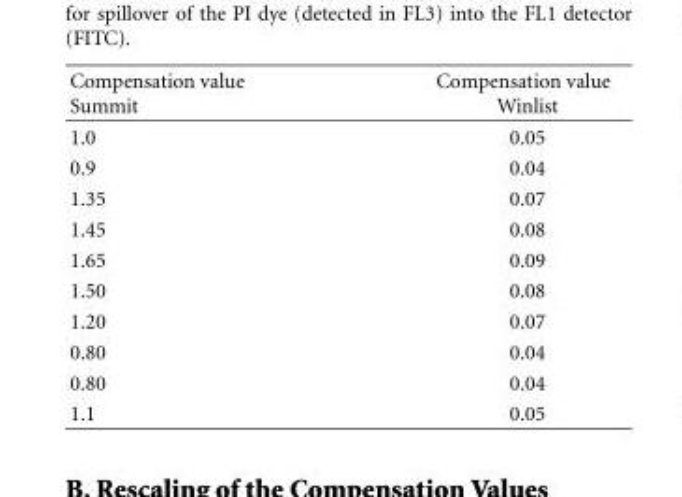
<table><thead><tr><td>Compensation value Summit</td><td>Compensation value Winlist</td></tr></thead><tbody><tr><td>1.0</td><td>0.05</td></tr><tr><td>0.9</td><td>0.04</td></tr><tr><td>1.35</td><td>0.07</td></tr><tr><td>1.45</td><td>0.08</td></tr><tr><td>1.65</td><td>0.09</td></tr><tr><td>1.50</td><td>0.08</td></tr><tr><td>1.20</td><td>0.07</td></tr><tr><td>0.80</td><td>0.04</td></tr><tr><td>0.80</td><td>0.04</td></tr><tr><td>1.1</td><td>0.05</td></tr></tbody></table>